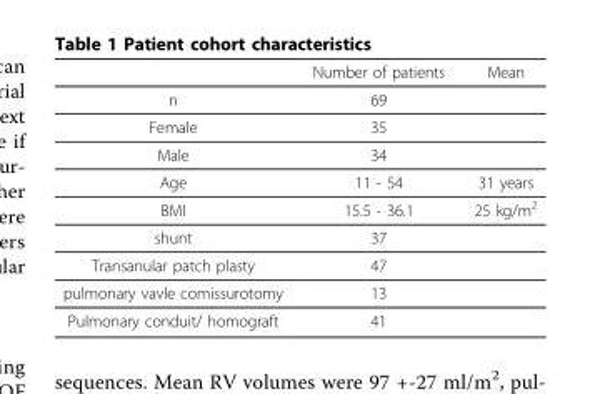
<table><thead><tr><td></td><td>Number of patients</td><td>Mean</td></tr></thead><tbody><tr><td>n</td><td>69</td><td></td></tr><tr><td>Female</td><td>35</td><td></td></tr><tr><td>Male</td><td>34</td><td></td></tr><tr><td>Age</td><td>11 - 54</td><td>31 years</td></tr><tr><td>BMI</td><td>15.5 - 36.1</td><td>25 kg/m<sup>2</sup></td></tr><tr><td>shunt</td><td>37</td><td></td></tr><tr><td>Transanular patch plasty</td><td>47</td><td></td></tr><tr><td>pulmonary vavle comissurotomy</td><td>13</td><td></td></tr><tr><td>Pulmonary conduit/ homograft</td><td>41</td><td></td></tr></tbody></table>